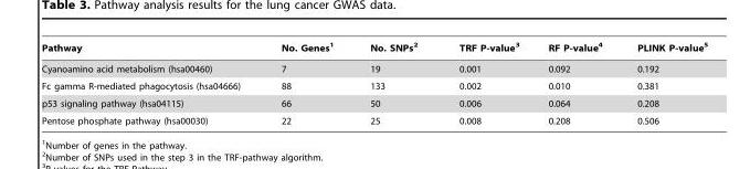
<table><thead><tr><td>Pathway</td><td>No. Genes<sup>1</sup></td><td>No. SNPs<sup>2</sup></td><td>TRF P-value<sup>3</sup></td><td>RF P-value<sup>4</sup></td><td>PLINK P-value<sup>5</sup></td></tr></thead><tbody><tr><td>Cyanoamino acid metabolism (hsa00460)</td><td>7</td><td>19</td><td>0.001</td><td>0.092</td><td>0.192</td></tr><tr><td>Fc gamma R-mediated phagocytosis (hsa04666)</td><td>88</td><td>133</td><td>0.002</td><td>0.010</td><td>0.381</td></tr><tr><td>p53 signaling pathway (hsa04115)</td><td>66</td><td>50</td><td>0.006</td><td>0.064</td><td>0.208</td></tr><tr><td>Pentose phosphate pathway (hsa00030)</td><td>22</td><td>25</td><td>0.008</td><td>0.208</td><td>0.506</td></tr></tbody></table>